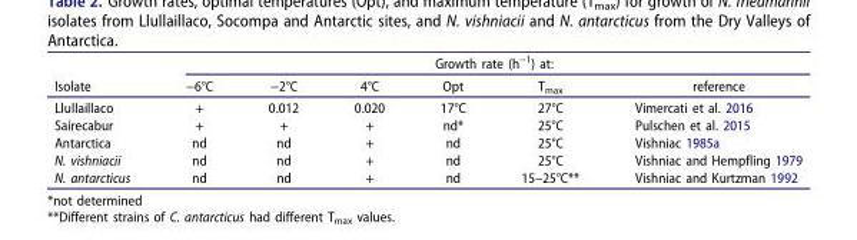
<table><thead><tr><td rowspan="2">Isolate</td><td colspan="6">Growth rate (h<sup>−1</sup>) at:</td></tr><tr><td>−6°C</td><td>−2°C</td><td>4°C</td><td>Opt</td><td>T<sub>max</sub></td><td>reference</td></tr></thead><tbody><tr><td>Llullaillaco</td><td>+</td><td>0.012</td><td>0.020</td><td>17°C</td><td>27°C</td><td>Vimercati et al. 2016</td></tr><tr><td>Saírecabur</td><td>+</td><td>+</td><td>+</td><td>nd*</td><td>25°C</td><td>Pulschen et al. 2015</td></tr><tr><td>Antarctica</td><td>nd</td><td>nd</td><td>+</td><td>nd</td><td>25°C</td><td>Vishniac 1985a</td></tr><tr><td>N. vishniacii</td><td>nd</td><td>nd</td><td>+</td><td>nd</td><td>25°C</td><td>Vishniac and Hempfling 1979</td></tr><tr><td>N. antarcticus</td><td>nd</td><td>nd</td><td>+</td><td>nd</td><td>15–25°C**</td><td>Vishniac and Kurtzman 1992</td></tr></tbody></table>